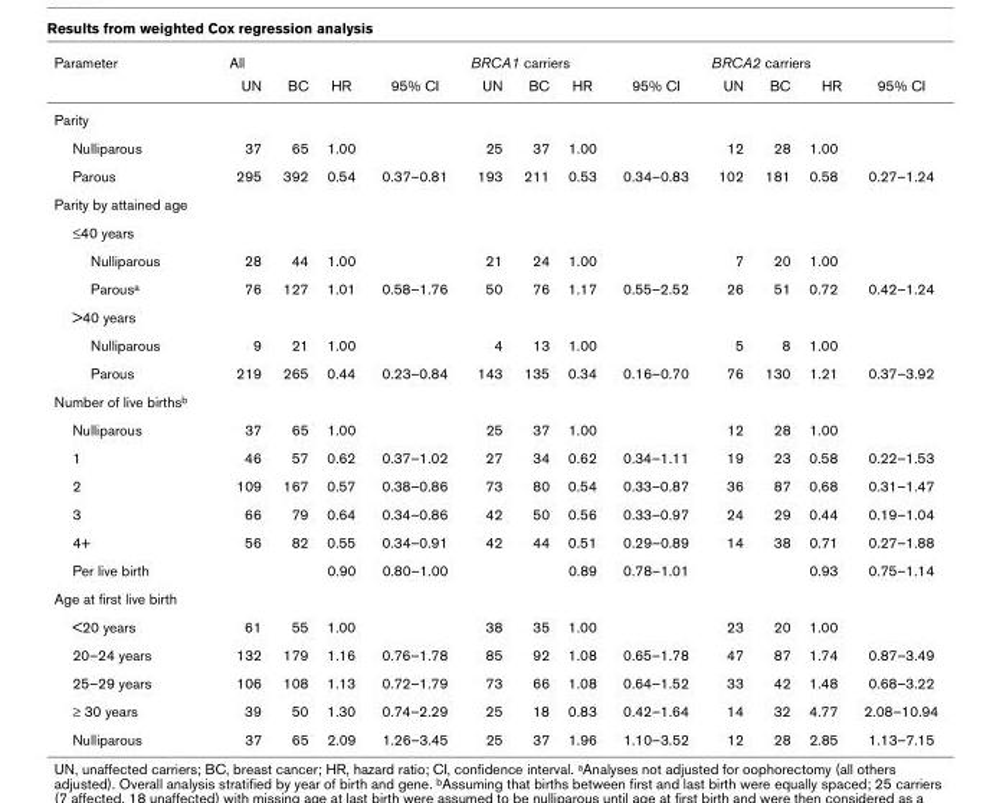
<table><thead><tr><td rowspan="2">Parameter</td><td colspan="4">All</td><td colspan="4">BRCA1 carriers</td><td colspan="4">BRCA2 carriers</td></tr><tr><td>UN</td><td>BC</td><td>HR</td><td>95% CI</td><td>UN</td><td>BC</td><td>HR</td><td>95% CI</td><td>UN</td><td>BC</td><td>HR</td><td>95% CI</td></tr></thead><tbody><tr><td colspan="13">Parity</td></tr><tr><td>Nulliparous</td><td>37</td><td>65</td><td>1.00</td><td></td><td>25</td><td>37</td><td>1.00</td><td></td><td>12</td><td>28</td><td>1.00</td><td></td></tr><tr><td>Parous</td><td>295</td><td>392</td><td>0.54</td><td>0.37–0.81</td><td>193</td><td>211</td><td>0.53</td><td>0.34–0.83</td><td>102</td><td>181</td><td>0.58</td><td>0.27–1.24</td></tr><tr><td colspan="13">Parity by attained age</td></tr><tr><td colspan="13">≤40 years</td></tr><tr><td>Nulliparous</td><td>28</td><td>44</td><td>1.00</td><td></td><td>21</td><td>24</td><td>1.00</td><td></td><td>7</td><td>20</td><td>1.00</td><td></td></tr><tr><td>Parousa</td><td>76</td><td>127</td><td>1.01</td><td>0.58–1.76</td><td>50</td><td>76</td><td>1.17</td><td>0.55–2.52</td><td>26</td><td>51</td><td>0.72</td><td>0.42–1.24</td></tr><tr><td colspan="13">&gt;40 years</td></tr><tr><td>Nulliparous</td><td>9</td><td>21</td><td>1.00</td><td></td><td>4</td><td>13</td><td>1.00</td><td></td><td>5</td><td>8</td><td>1.00</td><td></td></tr><tr><td>Parous</td><td>219</td><td>265</td><td>0.44</td><td>0.23–0.84</td><td>143</td><td>135</td><td>0.34</td><td>0.16–0.70</td><td>76</td><td>130</td><td>1.21</td><td>0.37–3.92</td></tr><tr><td colspan="13">Number of live birthsb</td></tr><tr><td>Nulliparous</td><td>37</td><td>65</td><td>1.00</td><td></td><td>25</td><td>37</td><td>1.00</td><td></td><td>12</td><td>28</td><td>1.00</td><td></td></tr><tr><td>1</td><td>46</td><td>57</td><td>0.62</td><td>0.37–1.02</td><td>27</td><td>34</td><td>0.62</td><td>0.34–1.11</td><td>19</td><td>23</td><td>0.58</td><td>0.22–1.53</td></tr><tr><td>2</td><td>109</td><td>167</td><td>0.57</td><td>0.38–0.86</td><td>73</td><td>80</td><td>0.54</td><td>0.33–0.87</td><td>36</td><td>87</td><td>0.68</td><td>0.31–1.47</td></tr><tr><td>3</td><td>66</td><td>79</td><td>0.64</td><td>0.34–0.86</td><td>42</td><td>50</td><td>0.56</td><td>0.33–0.97</td><td>24</td><td>29</td><td>0.44</td><td>0.19–1.04</td></tr><tr><td>4+</td><td>56</td><td>82</td><td>0.55</td><td>0.34–0.91</td><td>42</td><td>44</td><td>0.51</td><td>0.29–0.89</td><td>14</td><td>38</td><td>0.71</td><td>0.27–1.88</td></tr><tr><td>Per live birth</td><td></td><td></td><td>0.90</td><td>0.80–1.00</td><td></td><td></td><td>0.89</td><td>0.78–1.01</td><td></td><td></td><td>0.93</td><td>0.75–1.14</td></tr><tr><td colspan="13">Age at first live birth</td></tr><tr><td>&lt;20 years</td><td>61</td><td>55</td><td>1.00</td><td></td><td>38</td><td>35</td><td>1.00</td><td></td><td>23</td><td>20</td><td>1.00</td><td></td></tr><tr><td>20–24 years</td><td>132</td><td>179</td><td>1.16</td><td>0.76–1.78</td><td>85</td><td>92</td><td>1.08</td><td>0.65–1.78</td><td>47</td><td>87</td><td>1.74</td><td>0.87–3.49</td></tr><tr><td>25–29 years</td><td>106</td><td>108</td><td>1.13</td><td>0.72–1.79</td><td>73</td><td>66</td><td>1.08</td><td>0.64–1.52</td><td>33</td><td>42</td><td>1.48</td><td>0.68–3.22</td></tr><tr><td>≥ 30 years</td><td>39</td><td>50</td><td>1.30</td><td>0.74–2.29</td><td>25</td><td>18</td><td>0.83</td><td>0.42–1.64</td><td>14</td><td>32</td><td>4.77</td><td>2.08–10.94</td></tr><tr><td>Nulliparous</td><td>37</td><td>65</td><td>2.09</td><td>1.26–3.45</td><td>25</td><td>37</td><td>1.96</td><td>1.10–3.52</td><td>12</td><td>28</td><td>2.85</td><td>1.13–7.15</td></tr></tbody></table>